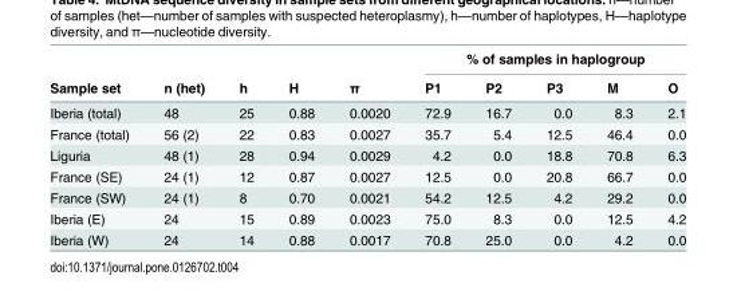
<table><thead><tr><td rowspan="2">Sample set</td><td rowspan="2">n (het)</td><td rowspan="2">h</td><td rowspan="2">H</td><td rowspan="2">π</td><td colspan="5">% of samples in haplogroup</td></tr><tr><td>P1</td><td>P2</td><td>P3</td><td>M</td><td>O</td></tr></thead><tbody><tr><td>Iberia (total)</td><td>48</td><td>25</td><td>0.88</td><td>0.0020</td><td>72.9</td><td>16.7</td><td>0.0</td><td>8.3</td><td>2.1</td></tr><tr><td>France (total)</td><td>56 (2)</td><td>22</td><td>0.83</td><td>0.0027</td><td>35.7</td><td>5.4</td><td>12.5</td><td>46.4</td><td>0.0</td></tr><tr><td>Liguria</td><td>48 (1)</td><td>28</td><td>0.94</td><td>0.0029</td><td>4.2</td><td>0.0</td><td>18.8</td><td>70.8</td><td>6.3</td></tr><tr><td>France (SE)</td><td>24 (1)</td><td>12</td><td>0.87</td><td>0.0027</td><td>12.5</td><td>0.0</td><td>20.8</td><td>66.7</td><td>0.0</td></tr><tr><td>France (SW)</td><td>24 (1)</td><td>8</td><td>0.70</td><td>0.0021</td><td>54.2</td><td>12.5</td><td>4.2</td><td>29.2</td><td>0.0</td></tr><tr><td>Iberia (E)</td><td>24</td><td>15</td><td>0.89</td><td>0.0023</td><td>75.0</td><td>8.3</td><td>0.0</td><td>12.5</td><td>4.2</td></tr><tr><td>Iberia (W)</td><td>24</td><td>14</td><td>0.88</td><td>0.0017</td><td>70.8</td><td>25.0</td><td>0.0</td><td>4.2</td><td>0.0</td></tr></tbody></table>